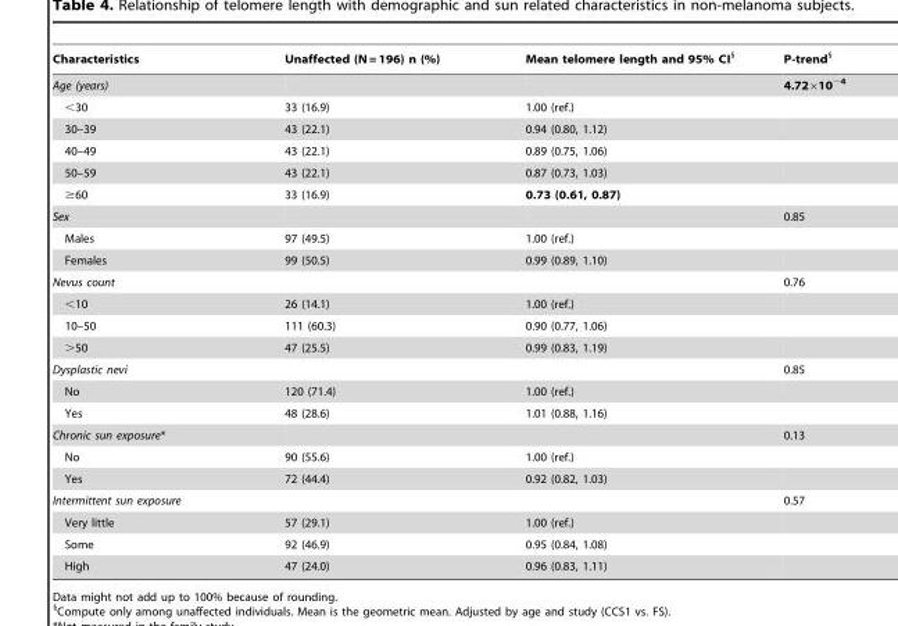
<table><thead><tr><td>Characteristics</td><td>Unaffected (N = 196) n (%)</td><td>Mean telomere length and 95% CI§</td><td>P-trend§</td></tr></thead><tbody><tr><td>Age (years)</td><td></td><td></td><td>4.72×10<sup>−4</sup></td></tr><tr><td>&lt;30</td><td>33 (16.9)</td><td>1.00 (ref.)</td><td></td></tr><tr><td>30–39</td><td>43 (22.1)</td><td>0.94 (0.80, 1.12)</td><td></td></tr><tr><td>40–49</td><td>43 (22.1)</td><td>0.89 (0.75, 1.06)</td><td></td></tr><tr><td>50–59</td><td>43 (22.1)</td><td>0.87 (0.73, 1.03)</td><td></td></tr><tr><td>≥60</td><td>33 (16.9)</td><td>0.73 (0.61, 0.87)</td><td></td></tr><tr><td>Sex</td><td></td><td></td><td>0.85</td></tr><tr><td>Males</td><td>97 (49.5)</td><td>1.00 (ref.)</td><td></td></tr><tr><td>Females</td><td>99 (50.5)</td><td>0.99 (0.89, 1.10)</td><td></td></tr><tr><td>Nevus count</td><td></td><td></td><td>0.76</td></tr><tr><td>&lt;10</td><td>26 (14.1)</td><td>1.00 (ref.)</td><td></td></tr><tr><td>10–50</td><td>111 (60.3)</td><td>0.90 (0.77, 1.06)</td><td></td></tr><tr><td>&gt;50</td><td>47 (25.5)</td><td>0.99 (0.83, 1.19)</td><td></td></tr><tr><td>Dysplastic nevi</td><td></td><td></td><td>0.85</td></tr><tr><td>No</td><td>120 (71.4)</td><td>1.00 (ref.)</td><td></td></tr><tr><td>Yes</td><td>48 (28.6)</td><td>1.01 (0.88, 1.16)</td><td></td></tr><tr><td>Chronic sun exposure*</td><td></td><td></td><td>0.13</td></tr><tr><td>No</td><td>90 (55.6)</td><td>1.00 (ref.)</td><td></td></tr><tr><td>Yes</td><td>72 (44.4)</td><td>0.92 (0.82, 1.03)</td><td></td></tr><tr><td>Intermittent sun exposure</td><td></td><td></td><td>0.57</td></tr><tr><td>Very little</td><td>57 (29.1)</td><td>1.00 (ref.)</td><td></td></tr><tr><td>Some</td><td>92 (46.9)</td><td>0.95 (0.84, 1.08)</td><td></td></tr><tr><td>High</td><td>47 (24.0)</td><td>0.96 (0.83, 1.11)</td><td></td></tr></tbody></table>